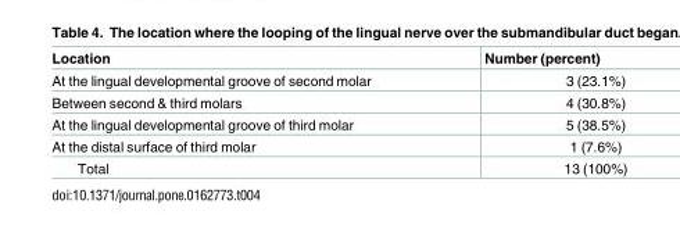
<table><thead><tr><td>Location</td><td>Number (percent)</td></tr></thead><tbody><tr><td>At the lingual developmental groove of second molar</td><td>3 (23.1%)</td></tr><tr><td>Between second &amp; third molars</td><td>4 (30.8%)</td></tr><tr><td>At the lingual developmental groove of third molar</td><td>5 (38.5%)</td></tr><tr><td>At the distal surface of third molar</td><td>1 (7.6%)</td></tr><tr><td>Total</td><td>13 (100%)</td></tr></tbody></table>